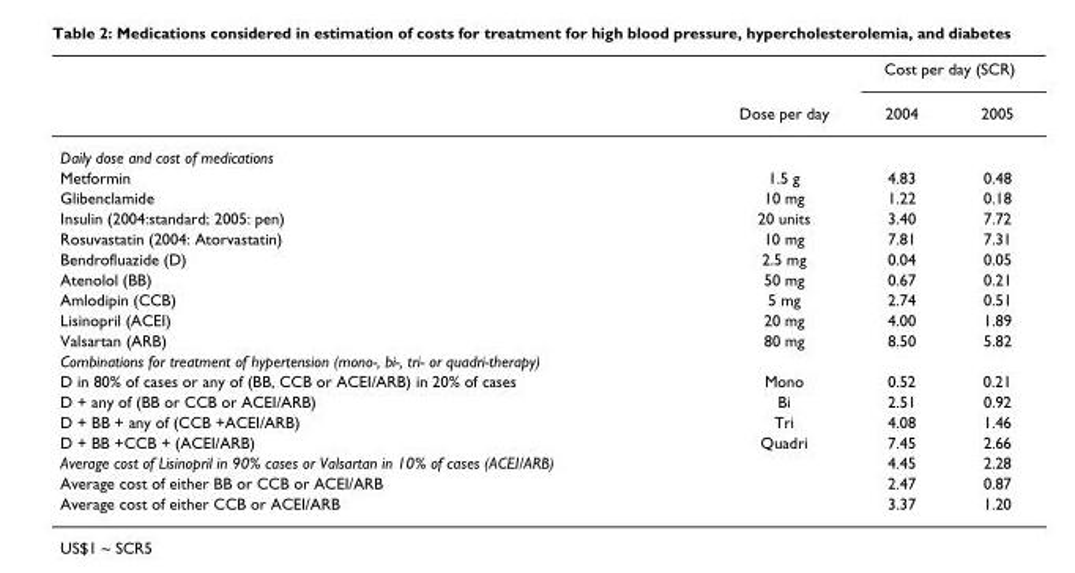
<table><thead><tr><td rowspan="2"></td><td rowspan="2">Dose per day</td><td colspan="2">Cost per day (SCR)</td></tr><tr><td>2004</td><td>2005</td></tr></thead><tbody><tr><td colspan="4">Daily dose and cost of medications</td></tr><tr><td>Metformin</td><td>1.5 g</td><td>4.83</td><td>0.48</td></tr><tr><td>Glibenclamide</td><td>10 mg</td><td>1.22</td><td>0.18</td></tr><tr><td>Insulin (2004:standard; 2005: pen)</td><td>20 units</td><td>3.40</td><td>7.72</td></tr><tr><td>Rosuvastatin (2004: Atorvastatin)</td><td>10 mg</td><td>7.81</td><td>7.31</td></tr><tr><td>Bendrofluazide (D)</td><td>2.5 mg</td><td>0.04</td><td>0.05</td></tr><tr><td>Atenolol (BB)</td><td>50 mg</td><td>0.67</td><td>0.21</td></tr><tr><td>Amlodipin (CCB)</td><td>5 mg</td><td>2.74</td><td>0.51</td></tr><tr><td>Lisinopril (ACEI)</td><td>20 mg</td><td>4.00</td><td>1.89</td></tr><tr><td>Valsartan (ARB)</td><td>80 mg</td><td>8.50</td><td>5.82</td></tr><tr><td colspan="4">Combinations for treatment of hypertension (mono-, bi-, tri- or quadri-therapy)</td></tr><tr><td>D in 80% of cases or any of (BB, CCB or ACEI/ARB) in 20% of cases</td><td>Mono</td><td>0.52</td><td>0.21</td></tr><tr><td>D + any of (BB or CCB or ACEI/ARB)</td><td>Bi</td><td>2.51</td><td>0.92</td></tr><tr><td>D + BB + any of (CCB +ACEI/ARB)</td><td>Tri</td><td>4.08</td><td>1.46</td></tr><tr><td>D + BB +CCB + (ACEI/ARB)</td><td>Quadri</td><td>7.45</td><td>2.66</td></tr><tr><td>Average cost of Lisinopril in 90% cases or Valsartan in 10% of cases (ACEI/ARB)</td><td></td><td>4.45</td><td>2.28</td></tr><tr><td>Average cost of either BB or CCB or ACEI/ARB</td><td></td><td>2.47</td><td>0.87</td></tr><tr><td>Average cost of either CCB or ACEI/ARB</td><td></td><td>3.37</td><td>1.20</td></tr></tbody></table>